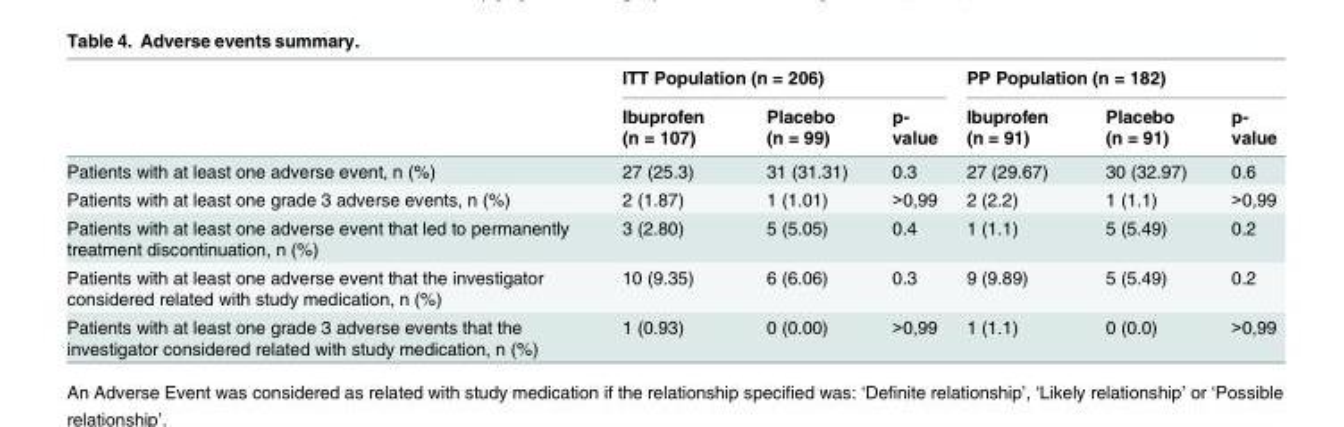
<table><thead><tr><td rowspan="2"></td><td colspan="3">ITT Population (n = 206)</td><td colspan="3">PP Population (n = 182)</td></tr><tr><td>Ibuprofen (n = 107)</td><td>Placebo (n = 99)</td><td>p- value</td><td>Ibuprofen (n = 91)</td><td>Placebo (n = 91)</td><td>p- value</td></tr></thead><tbody><tr><td>Patients with at least one adverse event, n (%)</td><td>27 (25.3)</td><td>31 (31.31)</td><td>0.3</td><td>27 (29.67)</td><td>30 (32.97)</td><td>0.6</td></tr><tr><td>Patients with at least one grade 3 adverse events, n (%)</td><td>2 (1.87)</td><td>1 (1.01)</td><td>&gt;0,99</td><td>2 (2.2)</td><td>1 (1.1)</td><td>&gt;0,99</td></tr><tr><td>Patients with at least one adverse event that led to permanently treatment discontinuation, n (%)</td><td>3 (2.80)</td><td>5 (5.05)</td><td>0.4</td><td>1 (1.1)</td><td>5 (5.49)</td><td>0.2</td></tr><tr><td>Patients with at least one adverse event that the investigator considered related with study medication, n (%)</td><td>10 (9.35)</td><td>6 (6.06)</td><td>0.3</td><td>9 (9.89)</td><td>5 (5.49)</td><td>0.2</td></tr><tr><td>Patients with at least one grade 3 adverse events that the investigator considered related with study medication, n (%)</td><td>1 (0.93)</td><td>0 (0.00)</td><td>&gt;0,99</td><td>1 (1.1)</td><td>0 (0.0)</td><td>&gt;0,99</td></tr></tbody></table>